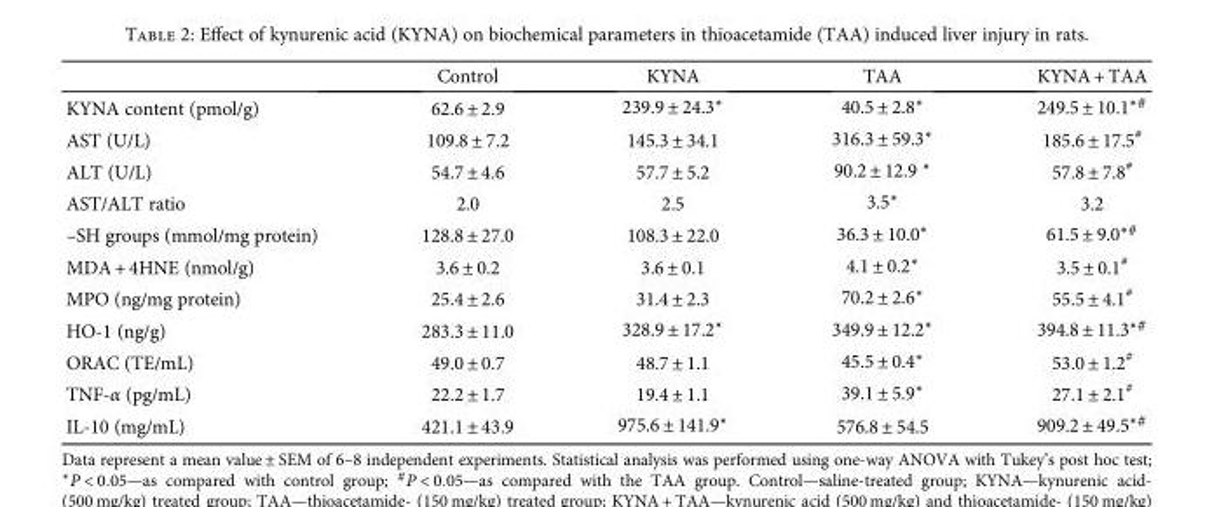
<table><thead><tr><td></td><td>Control</td><td>KYNA</td><td>TAA</td><td>KYNA + TAA</td></tr></thead><tbody><tr><td>KYNA content (pmol/g)</td><td>62.6 ± 2.9</td><td>239.9 ± 24.3∗</td><td>40.5 ± 2.8∗</td><td>249.5 ± 10.1<sup>∗#</sup></td></tr><tr><td>AST (U/L)</td><td>109.8 ± 7.2</td><td>145.3 ± 34.1</td><td>316.3 ± 59.3∗</td><td>185.6 ± 17.5<sup>#</sup></td></tr><tr><td>ALT (U/L)</td><td>54.7 ± 4.6</td><td>57.7 ± 5.2</td><td>90.2 ± 12.9 ∗</td><td>57.8 ± 7.8<sup>#</sup></td></tr><tr><td>AST/ALT ratio</td><td>2.0</td><td>2.5</td><td>3.5∗</td><td>3.2</td></tr><tr><td>–SH groups (mmol/mg protein)</td><td>128.8 ± 27.0</td><td>108.3 ± 22.0</td><td>36.3 ± 10.0∗</td><td>61.5 ± 9.0<sup>∗#</sup></td></tr><tr><td>MDA + 4HNE (nmol/g)</td><td>3.6 ± 0.2</td><td>3.6 ± 0.1</td><td>4.1 ± 0.2∗</td><td>3.5 ± 0.1<sup>#</sup></td></tr><tr><td>MPO (ng/mg protein)</td><td>25.4 ± 2.6</td><td>31.4 ± 2.3</td><td>70.2 ± 2.6∗</td><td>55.5 ± 4.1<sup>#</sup></td></tr><tr><td>HO-1 (ng/g)</td><td>283.3 ± 11.0</td><td>328.9 ± 17.2∗</td><td>349.9 ± 12.2∗</td><td>394.8 ± 11.3<sup>∗#</sup></td></tr><tr><td>ORAC (TE/mL)</td><td>49.0 ± 0.7</td><td>48.7 ± 1.1</td><td>45.5 ± 0.4∗</td><td>53.0 ± 1.2<sup>#</sup></td></tr><tr><td>TNF-α (pg/mL)</td><td>22.2 ± 1.7</td><td>19.4 ± 1.1</td><td>39.1 ± 5.9∗</td><td>27.1 ± 2.1<sup>#</sup></td></tr><tr><td>IL-10 (mg/mL)</td><td>421.1 ± 43.9</td><td>975.6 ± 141.9∗</td><td>576.8 ± 54.5</td><td>909.2 ± 49.5<sup>∗#</sup></td></tr></tbody></table>